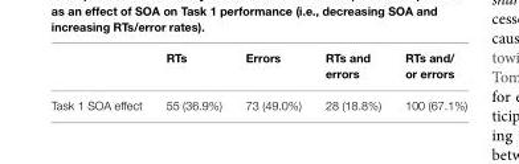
<table><thead><tr><td></td><td>RTs</td><td>Errors</td><td>RTs and errors</td><td>RTs and/ or errors</td></tr></thead><tbody><tr><td>Task 1 SOA effect</td><td>55 (36.9%)</td><td>73 (49.0%)</td><td>28 (18.8%)</td><td>100 (67.1%)</td></tr></tbody></table>